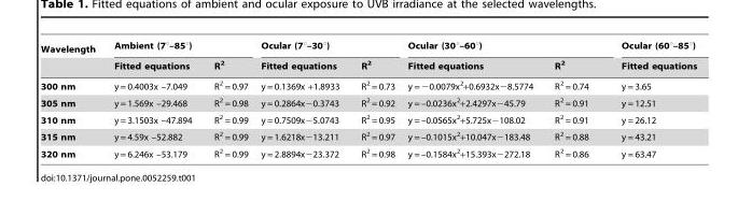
<table><thead><tr><td rowspan="2">Wavelength</td><td colspan="2">Ambient (7°–85°)</td><td colspan="2">Ocular (7°–30°)</td><td colspan="2">Ocular (30°–60°)</td><td rowspan="2">Ocular (60°–85°) Fitted equations</td></tr><tr><td>Fitted equations</td><td>R<sup>2</sup></td><td>Fitted equations</td><td>R<sup>2</sup></td><td>Fitted equations</td><td>R<sup>2</sup></td></tr></thead><tbody><tr><td>300 nm</td><td>y = 0.4003x –7.049</td><td>R<sup>2</sup> = 0.97</td><td>y = 0.1369x +1.8933</td><td>R<sup>2</sup> = 0.73</td><td>y = −0.0079x<sup>2</sup>+0.6932x−8.5774</td><td>R<sup>2</sup> = 0.74</td><td>y = 3.65</td></tr><tr><td>305 nm</td><td>y = 1.569x –29.468</td><td>R<sup>2</sup> = 0.98</td><td>y = 0.2864x−0.3743</td><td>R<sup>2</sup> = 0.92</td><td>y = –0.0236x<sup>2</sup>+2.4297x−45.79</td><td>R<sup>2</sup> = 0.91</td><td>y = 12.51</td></tr><tr><td>310 nm</td><td>y = 3.1503x –47.894</td><td>R<sup>2</sup> = 0.99</td><td>y = 0.7509x−5.0743</td><td>R<sup>2</sup> = 0.95</td><td>y = –0.0565x<sup>2</sup>+5.725x−108.02</td><td>R<sup>2</sup> = 0.91</td><td>y = 26.12</td></tr><tr><td>315 nm</td><td>y = 4.59x –52.882</td><td>R<sup>2</sup> = 0.99</td><td>y = 1.6218x−13.211</td><td>R<sup>2</sup> = 0.97</td><td>y = –0.1015x<sup>2</sup>+10.047x−183.48</td><td>R<sup>2</sup> = 0.88</td><td>y = 43.21</td></tr><tr><td>320 nm</td><td>y = 6.246x –53.179</td><td>R<sup>2</sup> = 0.99</td><td>y = 2.8894x−23.372</td><td>R<sup>2</sup> = 0.98</td><td>y = –0.1584x<sup>2</sup>+15.393x−272.18</td><td>R<sup>2</sup> = 0.86</td><td>y = 63.47</td></tr></tbody></table>